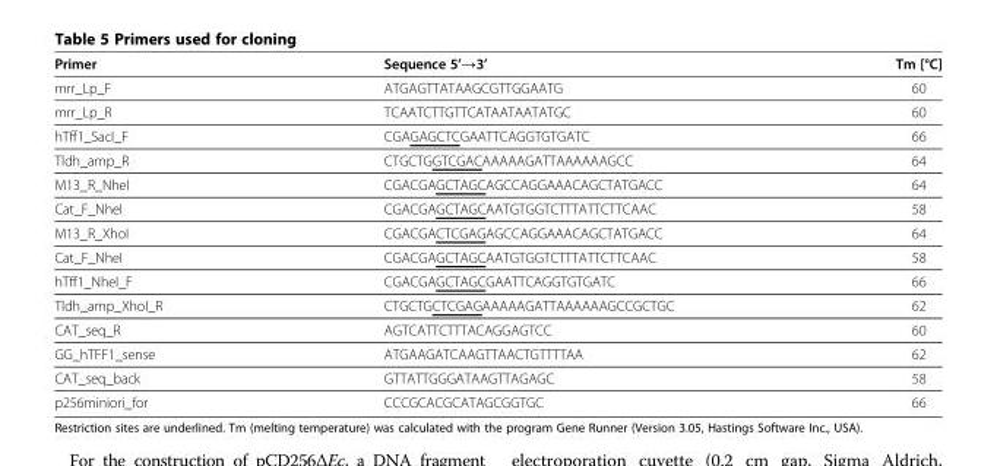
<table><thead><tr><td>Primer</td><td>Sequence 5’→3’</td><td>Tm [°C]</td></tr></thead><tbody><tr><td>mrr_Lp_F</td><td>ATGAGTTATAAGCGTTGGAATG</td><td>60</td></tr><tr><td>mrr_Lp_R</td><td>TCAATCTTGTTCATAATAATATGC</td><td>60</td></tr><tr><td>hTff1_SacI_F</td><td>CGAGAGCTCGAATTCAGGTGTGATC</td><td>66</td></tr><tr><td>Tldh_amp_R</td><td>CTGCTGGTCGACAAAAAGATTAAAAAAGCC</td><td>64</td></tr><tr><td>M13_R_NheI</td><td>CGACGAGCTAGCAGCCAGGAAACAGCTATGACC</td><td>64</td></tr><tr><td>Cat_F_NheI</td><td>CGACGAGCTAGCAATGTGGTCTTTATTCTTCAAC</td><td>58</td></tr><tr><td>M13_R_XhoI</td><td>CGACGACTCGAGAGCCAGGAAACAGCTATGACC</td><td>64</td></tr><tr><td>Cat_F_NheI</td><td>CGACGAGCTAGCAATGTGGTCTTTATTCTTCAAC</td><td>58</td></tr><tr><td>hTff1_NheI_F</td><td>CGACGAGCTAGCGAATTCAGGTGTGATC</td><td>66</td></tr><tr><td>Tldh_amp_XhoI_R</td><td>CTGCTGCTCGAGAAAAAGATTAAAAAAGCCGCTGC</td><td>62</td></tr><tr><td>CAT_seq_R</td><td>AGTCATTCTTTACAGGAGTCC</td><td>60</td></tr><tr><td>GG_hTFF1_sense</td><td>ATGAAGATCAAGTTAACTGTTTTAA</td><td>62</td></tr><tr><td>CAT_seq_back</td><td>GTTATTGGGATAAGTTAGAGC</td><td>58</td></tr><tr><td>p256miniori_for</td><td>CCCGCACGCATAGCGGTGC</td><td>66</td></tr></tbody></table>